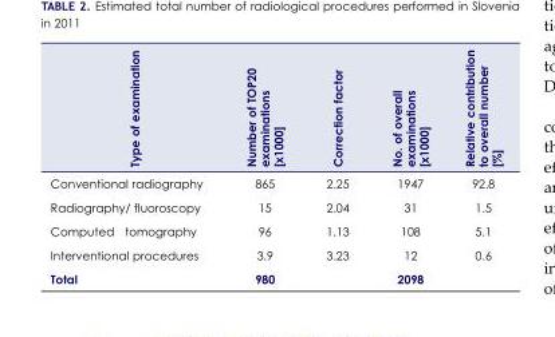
<table><thead><tr><td>Type of examination</td><td>Number of TOP20 examinations [x1000]</td><td>Correction factor</td><td>No. of overall examinations [x1000]</td><td>Relative contribution to overall number [%]</td></tr></thead><tbody><tr><td>Conventional radiography</td><td>865</td><td>2.25</td><td>1947</td><td>92.8</td></tr><tr><td>Radiography/ fluoroscopy</td><td>15</td><td>2.04</td><td>31</td><td>1.5</td></tr><tr><td>Computed tomography</td><td>96</td><td>1.13</td><td>108</td><td>5.1</td></tr><tr><td>Interventional procedures</td><td>3.9</td><td>3.23</td><td>12</td><td>0.6</td></tr><tr><td>Total</td><td>980</td><td></td><td>2098</td><td></td></tr></tbody></table>